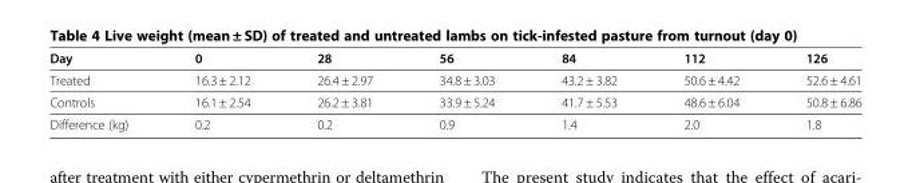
<table><thead><tr><td>Day</td><td>0</td><td>28</td><td>56</td><td>84</td><td>112</td><td>126</td></tr></thead><tbody><tr><td>Treated</td><td>16.3 ± 2.12</td><td>26.4 ± 2.97</td><td>34.8 ± 3.03</td><td>43.2 ± 3.82</td><td>50.6 ± 4.42</td><td>52.6 ± 4.61</td></tr><tr><td>Controls</td><td>16.1 ± 2.54</td><td>26.2 ± 3.81</td><td>33.9 ± 5.24</td><td>41.7 ± 5.53</td><td>48.6 ± 6.04</td><td>50.8 ± 6.86</td></tr><tr><td>Difference (kg)</td><td>0.2</td><td>0.2</td><td>0.9</td><td>1.4</td><td>2.0</td><td>1.8</td></tr></tbody></table>